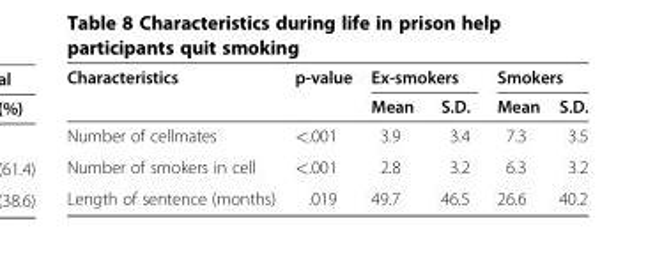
<table><thead><tr><td rowspan="2">Characteristics</td><td rowspan="2">p-value</td><td colspan="2">Ex-smokers</td><td colspan="2">Smokers</td></tr><tr><td>Mean</td><td>S.D.</td><td>Mean</td><td>S.D.</td></tr></thead><tbody><tr><td>Number of cellmates</td><td>&lt;.001</td><td>3.9</td><td>3.4</td><td>7.3</td><td>3.5</td></tr><tr><td>Number of smokers in cell</td><td>&lt;.001</td><td>2.8</td><td>3.2</td><td>6.3</td><td>3.2</td></tr><tr><td>Length of sentence (months)</td><td>.019</td><td>49.7</td><td>46.5</td><td>26.6</td><td>40.2</td></tr></tbody></table>